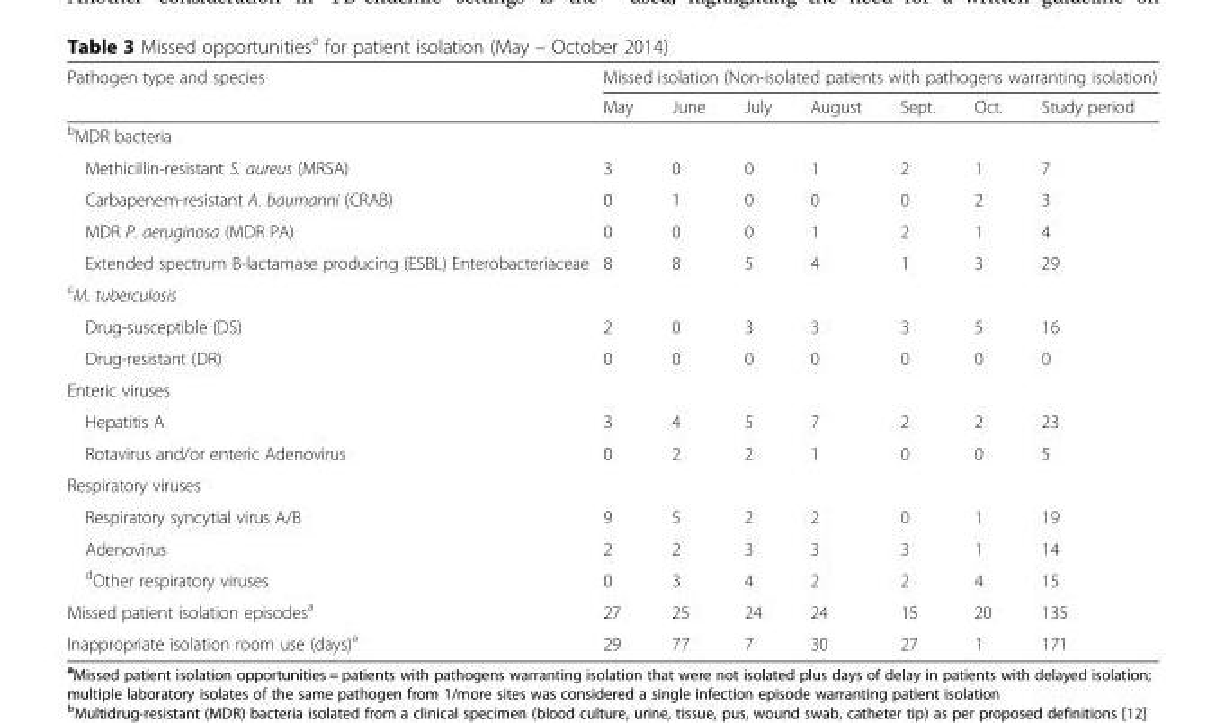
<table><thead><tr><td rowspan="2">Pathogen type and species</td><td colspan="7">Missed isolation (Non-isolated patients with pathogens warranting isolation)</td></tr><tr><td>May</td><td>June</td><td>July</td><td>August</td><td>Sept.</td><td>Oct.</td><td>Study period</td></tr></thead><tbody><tr><td colspan="8"><sup>b</sup>MDR bacteria</td></tr><tr><td>Methicillin-resistant S. aureus (MRSA)</td><td>3</td><td>0</td><td>0</td><td>1</td><td>2</td><td>1</td><td>7</td></tr><tr><td>Carbapenem-resistant A. baumanni (CRAB)</td><td>0</td><td>1</td><td>0</td><td>0</td><td>0</td><td>2</td><td>3</td></tr><tr><td>MDR P. aeruginosa (MDR PA)</td><td>0</td><td>0</td><td>0</td><td>1</td><td>2</td><td>1</td><td>4</td></tr><tr><td>Extended spectrum B-lactamase producing (ESBL) Enterobacteriaceae</td><td>8</td><td>8</td><td>5</td><td>4</td><td>1</td><td>3</td><td>29</td></tr><tr><td colspan="8"><sup>c</sup>M. tuberculosis</td></tr><tr><td>Drug-susceptible (DS)</td><td>2</td><td>0</td><td>3</td><td>3</td><td>3</td><td>5</td><td>16</td></tr><tr><td>Drug-resistant (DR)</td><td>0</td><td>0</td><td>0</td><td>0</td><td>0</td><td>0</td><td>0</td></tr><tr><td colspan="8">Enteric viruses</td></tr><tr><td>Hepatitis A</td><td>3</td><td>4</td><td>5</td><td>7</td><td>2</td><td>2</td><td>23</td></tr><tr><td>Rotavirus and/or enteric Adenovirus</td><td>0</td><td>2</td><td>2</td><td>1</td><td>0</td><td>0</td><td>5</td></tr><tr><td colspan="8">Respiratory viruses</td></tr><tr><td>Respiratory syncytial virus A/B</td><td>9</td><td>5</td><td>2</td><td>2</td><td>0</td><td>1</td><td>19</td></tr><tr><td>Adenovirus</td><td>2</td><td>2</td><td>3</td><td>3</td><td>3</td><td>1</td><td>14</td></tr><tr><td><sup>d</sup>Other respiratory viruses</td><td>0</td><td>3</td><td>4</td><td>2</td><td>2</td><td>4</td><td>15</td></tr><tr><td>Missed patient isolation episodes<sup>a</sup></td><td>27</td><td>25</td><td>24</td><td>24</td><td>15</td><td>20</td><td>135</td></tr><tr><td>Inappropriate isolation room use (days)<sup>e</sup></td><td>29</td><td>77</td><td>7</td><td>30</td><td>27</td><td>1</td><td>171</td></tr></tbody></table>